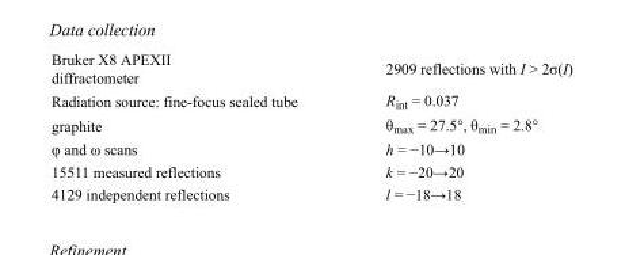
<table><tbody><tr><td>Bruker X8 APEXII diffractometer</td><td>2909 reflections with I &gt; 2σ(I)</td></tr><tr><td>Radiation source: fine-focus sealed tube</td><td>R<sub>int</sub> = 0.037</td></tr><tr><td>graphite</td><td>θ<sub>max</sub> = 27.5°, θ<sub>min</sub> = 2.8°</td></tr><tr><td>φ and ω scans</td><td>h = −10→10</td></tr><tr><td>15511 measured reflections</td><td>k = −20→20</td></tr><tr><td>4129 independent reflections</td><td>l = −18→18</td></tr></tbody></table>